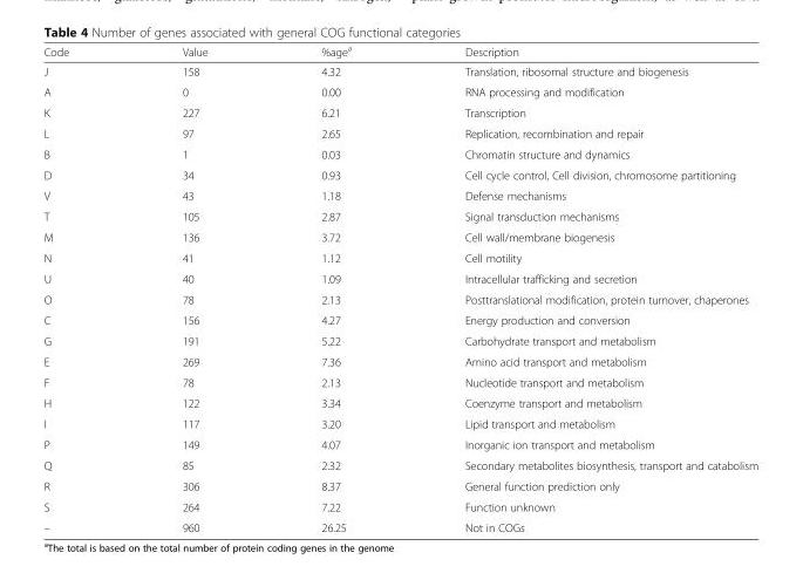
<table><thead><tr><td>Code</td><td>Value</td><td>%age<sup>a</sup></td><td>Description</td></tr></thead><tbody><tr><td>J</td><td>158</td><td>4.32</td><td>Translation, ribosomal structure and biogenesis</td></tr><tr><td>A</td><td>0</td><td>0.00</td><td>RNA processing and modification</td></tr><tr><td>K</td><td>227</td><td>6.21</td><td>Transcription</td></tr><tr><td>L</td><td>97</td><td>2.65</td><td>Replication, recombination and repair</td></tr><tr><td>B</td><td>1</td><td>0.03</td><td>Chromatin structure and dynamics</td></tr><tr><td>D</td><td>34</td><td>0.93</td><td>Cell cycle control, Cell division, chromosome partitioning</td></tr><tr><td>V</td><td>43</td><td>1.18</td><td>Defense mechanisms</td></tr><tr><td>T</td><td>105</td><td>2.87</td><td>Signal transduction mechanisms</td></tr><tr><td>M</td><td>136</td><td>3.72</td><td>Cell wall/membrane biogenesis</td></tr><tr><td>N</td><td>41</td><td>1.12</td><td>Cell motility</td></tr><tr><td>U</td><td>40</td><td>1.09</td><td>Intracellular trafficking and secretion</td></tr><tr><td>O</td><td>78</td><td>2.13</td><td>Posttranslational modification, protein turnover, chaperones</td></tr><tr><td>C</td><td>156</td><td>4.27</td><td>Energy production and conversion</td></tr><tr><td>G</td><td>191</td><td>5.22</td><td>Carbohydrate transport and metabolism</td></tr><tr><td>E</td><td>269</td><td>7.36</td><td>Amino acid transport and metabolism</td></tr><tr><td>F</td><td>78</td><td>2.13</td><td>Nucleotide transport and metabolism</td></tr><tr><td>H</td><td>122</td><td>3.34</td><td>Coenzyme transport and metabolism</td></tr><tr><td>I</td><td>117</td><td>3.20</td><td>Lipid transport and metabolism</td></tr><tr><td>P</td><td>149</td><td>4.07</td><td>Inorganic ion transport and metabolism</td></tr><tr><td>Q</td><td>85</td><td>2.32</td><td>Secondary metabolites biosynthesis, transport and catabolism</td></tr><tr><td>R</td><td>306</td><td>8.37</td><td>General function prediction only</td></tr><tr><td>S</td><td>264</td><td>7.22</td><td>Function unknown</td></tr><tr><td>–</td><td>960</td><td>26.25</td><td>Not in COGs</td></tr></tbody></table>